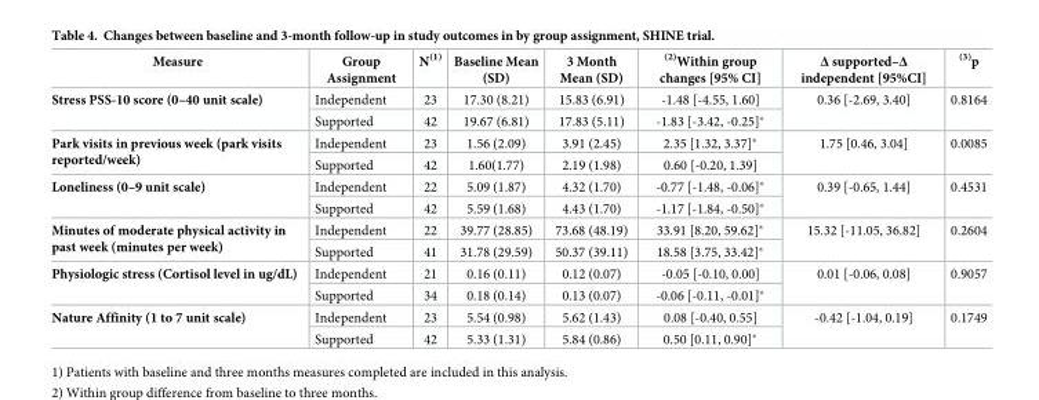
<table><thead><tr><td>Measure</td><td>Group Assignment</td><td>N<sup>(1)</sup></td><td>Baseline Mean (SD)</td><td>3 Month Mean (SD)</td><td><sup>(2)</sup>Within group changes [95% CI]</td><td>Δ supported–Δ independent [95%CI]</td><td><sup>(3)</sup>p</td></tr></thead><tbody><tr><td rowspan="2">Stress PSS-10 score (0–40 unit scale)</td><td>Independent</td><td>23</td><td>17.30 (8.21)</td><td>15.83 (6.91)</td><td>-1.48 [-4.55, 1.60]</td><td rowspan="2">0.36 [-2.69, 3.40]</td><td rowspan="2">0.8164</td></tr><tr><td>Supported</td><td>42</td><td>19.67 (6.81)</td><td>17.83 (5.11)</td><td>-1.83 [-3.42, -0.25]*</td></tr><tr><td rowspan="2">Park visits in previous week (park visits reported/week)</td><td>Independent</td><td>23</td><td>1.56 (2.09)</td><td>3.91 (2.45)</td><td>2.35 [1.32, 3.37]*</td><td rowspan="2">1.75 [0.46, 3.04]</td><td rowspan="2">0.0085</td></tr><tr><td>Supported</td><td>42</td><td>1.60(1.77)</td><td>2.19 (1.98)</td><td>0.60 [-0.20, 1.39]</td></tr><tr><td rowspan="2">Loneliness (0–9 unit scale)</td><td>Independent</td><td>22</td><td>5.09 (1.87)</td><td>4.32 (1.70)</td><td>-0.77 [-1.48, -0.06]*</td><td rowspan="2">0.39 [-0.65, 1.44]</td><td rowspan="2">0.4531</td></tr><tr><td>Supported</td><td>42</td><td>5.59 (1.68)</td><td>4.43 (1.70)</td><td>-1.17 [-1.84, -0.50]*</td></tr><tr><td rowspan="2">Minutes of moderate physical activity in past week (minutes per week)</td><td>Independent</td><td>22</td><td>39.77 (28.85)</td><td>73.68 (48.19)</td><td>33.91 [8.20, 59.62]*</td><td rowspan="2">15.32 [-11.05, 36.82]</td><td rowspan="2">0.2604</td></tr><tr><td>Supported</td><td>41</td><td>31.78 (29.59)</td><td>50.37 (39.11)</td><td>18.58 [3.75, 33.42]*</td></tr><tr><td rowspan="2">Physiologic stress (Cortisol level in ug/dL)</td><td>Independent</td><td>21</td><td>0.16 (0.11)</td><td>0.12 (0.07)</td><td>-0.05 [-0.10, 0.00]</td><td rowspan="2">0.01 [-0.06, 0.08]</td><td rowspan="2">0.9057</td></tr><tr><td>Supported</td><td>34</td><td>0.18 (0.14)</td><td>0.13 (0.07)</td><td>-0.06 [-0.11, -0.01]*</td></tr><tr><td rowspan="2">Nature Affinity (1 to 7 unit scale)</td><td>Independent</td><td>23</td><td>5.54 (0.98)</td><td>5.62 (1.43)</td><td>0.08 [-0.40, 0.55]</td><td rowspan="2">-0.42 [-1.04, 0.19]</td><td rowspan="2">0.1749</td></tr><tr><td>Supported</td><td>42</td><td>5.33 (1.31)</td><td>5.84 (0.86)</td><td>0.50 [0.11, 0.90]*</td></tr></tbody></table>